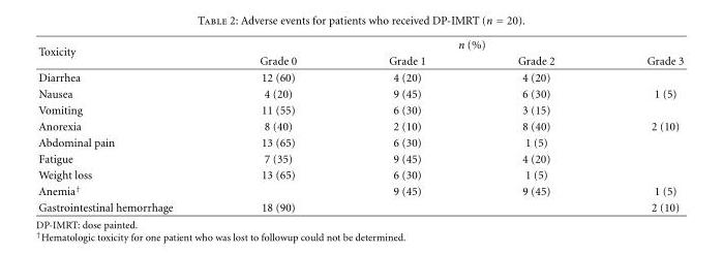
<table><thead><tr><td rowspan="2">Toxicity</td><td rowspan="2">Grade 0</td><td colspan="2">n (%)</td><td rowspan="2">Grade 3</td></tr><tr><td>Grade 1</td><td>Grade 2</td></tr></thead><tbody><tr><td>Diarrhea</td><td>12 (60)</td><td>4 (20)</td><td>4 (20)</td><td></td></tr><tr><td>Nausea</td><td>4 (20)</td><td>9 (45)</td><td>6 (30)</td><td>1 (5)</td></tr><tr><td>Vomiting</td><td>11 (55)</td><td>6 (30)</td><td>3 (15)</td><td></td></tr><tr><td>Anorexia</td><td>8 (40)</td><td>2 (10)</td><td>8 (40)</td><td>2 (10)</td></tr><tr><td>Abdominal pain</td><td>13 (65)</td><td>6 (30)</td><td>1 (5)</td><td></td></tr><tr><td>Fatigue</td><td>7 (35)</td><td>9 (45)</td><td>4 (20)</td><td></td></tr><tr><td>Weight loss</td><td>13 (65)</td><td>6 (30)</td><td>1 (5)</td><td></td></tr><tr><td>Anemia<sup>†</sup></td><td></td><td>9 (45)</td><td>9 (45)</td><td>1 (5)</td></tr><tr><td>Gastrointestinal hemorrhage</td><td>18 (90)</td><td></td><td></td><td>2 (10)</td></tr></tbody></table>